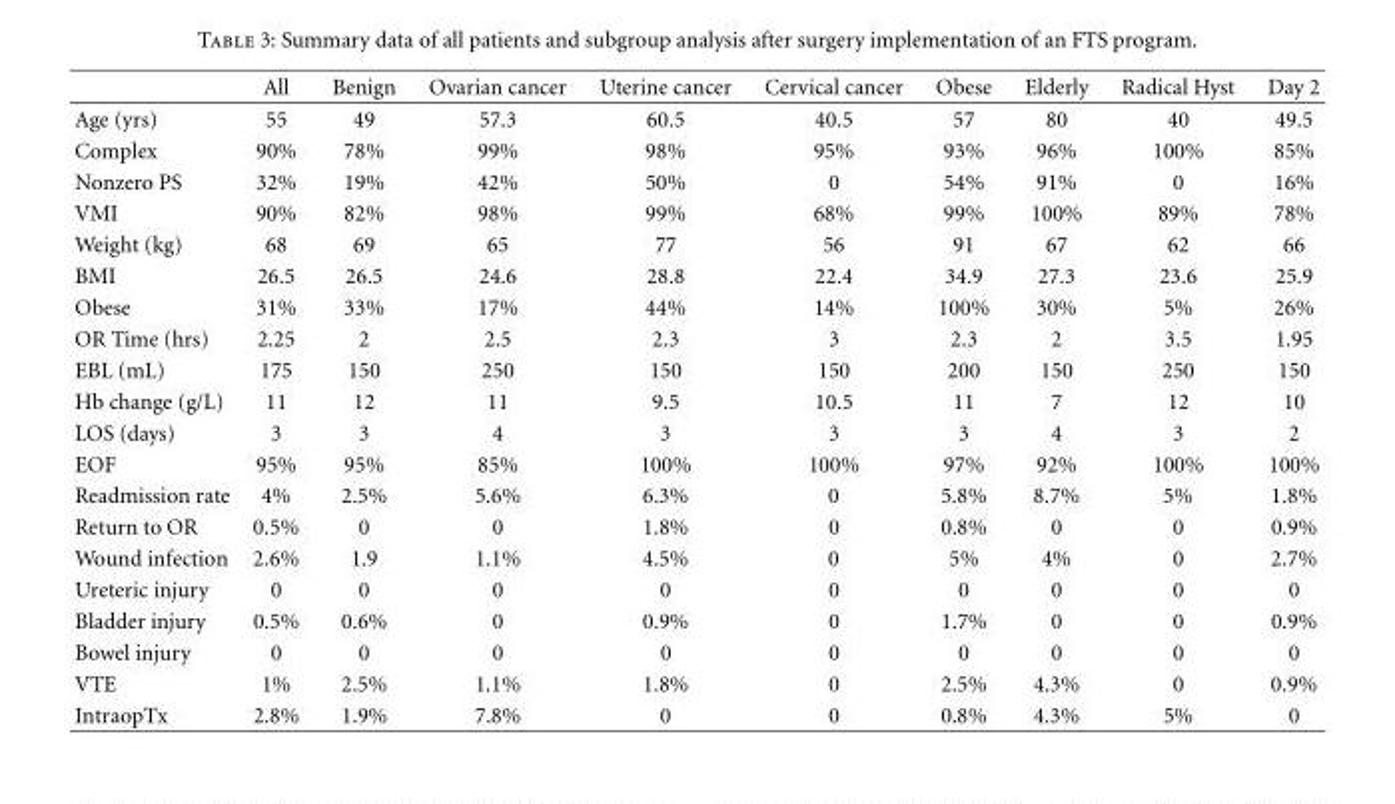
<table><thead><tr><td></td><td>All</td><td>Benign</td><td>Ovarian cancer</td><td>Uterine cancer</td><td>Cervical cancer</td><td>Obese</td><td>Elderly</td><td>Radical Hyst</td><td>Day 2</td></tr></thead><tbody><tr><td>Age (yrs)</td><td>55</td><td>49</td><td>57.3</td><td>60.5</td><td>40.5</td><td>57</td><td>80</td><td>40</td><td>49.5</td></tr><tr><td>Complex</td><td>90%</td><td>78%</td><td>99%</td><td>98%</td><td>95%</td><td>93%</td><td>96%</td><td>100%</td><td>85%</td></tr><tr><td>Nonzero PS</td><td>32%</td><td>19%</td><td>42%</td><td>50%</td><td>0</td><td>54%</td><td>91%</td><td>0</td><td>16%</td></tr><tr><td>VMI</td><td>90%</td><td>82%</td><td>98%</td><td>99%</td><td>68%</td><td>99%</td><td>100%</td><td>89%</td><td>78%</td></tr><tr><td>Weight (kg)</td><td>68</td><td>69</td><td>65</td><td>77</td><td>56</td><td>91</td><td>67</td><td>62</td><td>66</td></tr><tr><td>BMI</td><td>26.5</td><td>26.5</td><td>24.6</td><td>28.8</td><td>22.4</td><td>34.9</td><td>27.3</td><td>23.6</td><td>25.9</td></tr><tr><td>Obese</td><td>31%</td><td>33%</td><td>17%</td><td>44%</td><td>14%</td><td>100%</td><td>30%</td><td>5%</td><td>26%</td></tr><tr><td>OR Time (hrs)</td><td>2.25</td><td>2</td><td>2.5</td><td>2.3</td><td>3</td><td>2.3</td><td>2</td><td>3.5</td><td>1.95</td></tr><tr><td>EBL (mL)</td><td>175</td><td>150</td><td>250</td><td>150</td><td>150</td><td>200</td><td>150</td><td>250</td><td>150</td></tr><tr><td>Hb change (g/L)</td><td>11</td><td>12</td><td>11</td><td>9.5</td><td>10.5</td><td>11</td><td>7</td><td>12</td><td>10</td></tr><tr><td>LOS (days)</td><td>3</td><td>3</td><td>4</td><td>3</td><td>3</td><td>3</td><td>4</td><td>3</td><td>2</td></tr><tr><td>EOF</td><td>95%</td><td>95%</td><td>85%</td><td>100%</td><td>100%</td><td>97%</td><td>92%</td><td>100%</td><td>100%</td></tr><tr><td>Readmission rate</td><td>4%</td><td>2.5%</td><td>5.6%</td><td>6.3%</td><td>0</td><td>5.8%</td><td>8.7%</td><td>5%</td><td>1.8%</td></tr><tr><td>Return to OR</td><td>0.5%</td><td>0</td><td>0</td><td>1.8%</td><td>0</td><td>0.8%</td><td>0</td><td>0</td><td>0.9%</td></tr><tr><td>Wound infection</td><td>2.6%</td><td>1.9</td><td>1.1%</td><td>4.5%</td><td>0</td><td>5%</td><td>4%</td><td>0</td><td>2.7%</td></tr><tr><td>Ureteric injury</td><td>0</td><td>0</td><td>0</td><td>0</td><td>0</td><td>0</td><td>0</td><td>0</td><td>0</td></tr><tr><td>Bladder injury</td><td>0.5%</td><td>0.6%</td><td>0</td><td>0.9%</td><td>0</td><td>1.7%</td><td>0</td><td>0</td><td>0.9%</td></tr><tr><td>Bowel injury</td><td>0</td><td>0</td><td>0</td><td>0</td><td>0</td><td>0</td><td>0</td><td>0</td><td>0</td></tr><tr><td>VTE</td><td>1%</td><td>2.5%</td><td>1.1%</td><td>1.8%</td><td>0</td><td>2.5%</td><td>4.3%</td><td>0</td><td>0.9%</td></tr><tr><td>IntraopTx</td><td>2.8%</td><td>1.9%</td><td>7.8%</td><td>0</td><td>0</td><td>0.8%</td><td>4.3%</td><td>5%</td><td>0</td></tr></tbody></table>